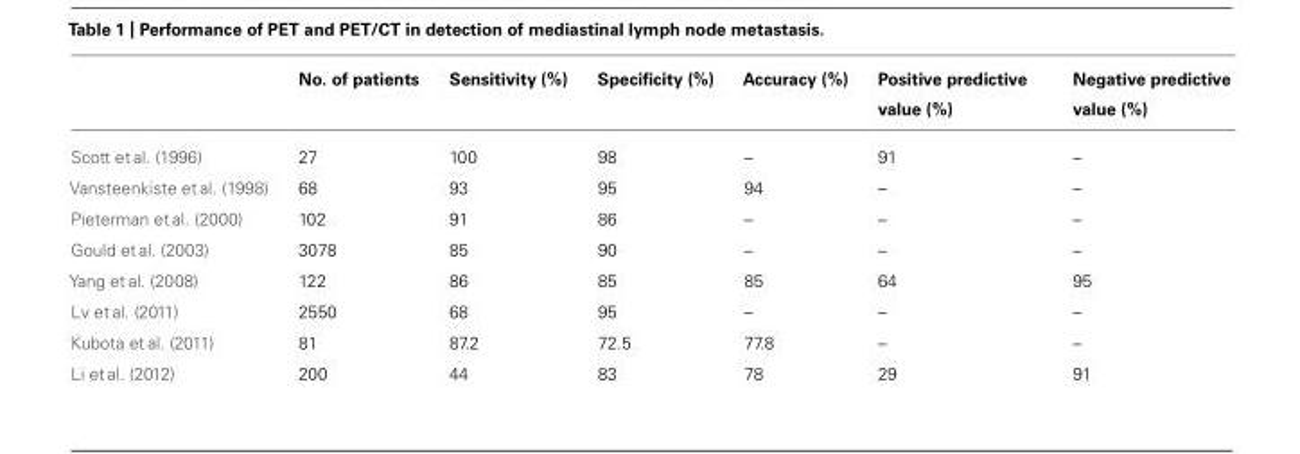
<table><thead><tr><td></td><td>No. of patients</td><td>Sensitivity (%)</td><td>Specificity (%)</td><td>Accuracy (%)</td><td>Positive predictive value (%)</td><td>Negative predictive value (%)</td></tr></thead><tbody><tr><td>Scott et al. (1996)</td><td>27</td><td>100</td><td>98</td><td>–</td><td>91</td><td>–</td></tr><tr><td>Vansteenkiste et al. (1998)</td><td>68</td><td>93</td><td>95</td><td>94</td><td>–</td><td>–</td></tr><tr><td>Pieterman et al. (2000)</td><td>102</td><td>91</td><td>86</td><td>–</td><td>–</td><td>–</td></tr><tr><td>Gould et al. (2003)</td><td>3078</td><td>85</td><td>90</td><td>–</td><td>–</td><td>–</td></tr><tr><td>Yang et al. (2008)</td><td>122</td><td>86</td><td>85</td><td>85</td><td>64</td><td>95</td></tr><tr><td>Lv et al. (2011)</td><td>2550</td><td>68</td><td>95</td><td>–</td><td>–</td><td>–</td></tr><tr><td>Kubota et al. (2011)</td><td>81</td><td>87.2</td><td>72.5</td><td>77.8</td><td>–</td><td>–</td></tr><tr><td>Li et al. (2012)</td><td>200</td><td>44</td><td>83</td><td>78</td><td>29</td><td>91</td></tr></tbody></table>